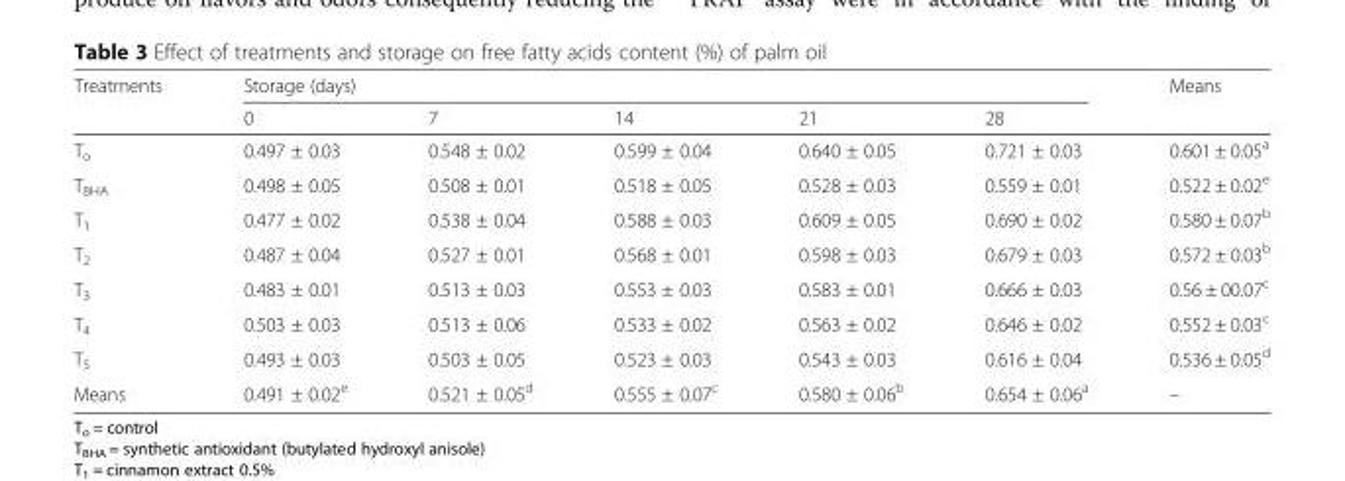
<table><thead><tr><td rowspan="2">Treatments</td><td colspan="5">Storage (days)</td><td rowspan="2">Means</td></tr><tr><td>0</td><td>7</td><td>14</td><td>21</td><td>28</td></tr></thead><tbody><tr><td>T<sub>o</sub></td><td>0.497 ± 0.03</td><td>0.548 ± 0.02</td><td>0.599 ± 0.04</td><td>0.640 ± 0.05</td><td>0.721 ± 0.03</td><td>0.601 ± 0.05<sup>a</sup></td></tr><tr><td>T<sub>BHA</sub></td><td>0.498 ± 0.05</td><td>0.508 ± 0.01</td><td>0.518 ± 0.05</td><td>0.528 ± 0.03</td><td>0.559 ± 0.01</td><td>0.522 ± 0.02<sup>e</sup></td></tr><tr><td>T<sub>1</sub></td><td>0.477 ± 0.02</td><td>0.538 ± 0.04</td><td>0.588 ± 0.03</td><td>0.609 ± 0.05</td><td>0.690 ± 0.02</td><td>0.580 ± 0.07<sup>b</sup></td></tr><tr><td>T<sub>2</sub></td><td>0.487 ± 0.04</td><td>0.527 ± 0.01</td><td>0.568 ± 0.01</td><td>0.598 ± 0.03</td><td>0.679 ± 0.03</td><td>0.572 ± 0.03<sup>b</sup></td></tr><tr><td>T<sub>3</sub></td><td>0.483 ± 0.01</td><td>0.513 ± 0.03</td><td>0.553 ± 0.03</td><td>0.583 ± 0.01</td><td>0.666 ± 0.03</td><td>0.56 ± 00.07<sup>c</sup></td></tr><tr><td>T<sub>4</sub></td><td>0.503 ± 0.03</td><td>0.513 ± 0.06</td><td>0.533 ± 0.02</td><td>0.563 ± 0.02</td><td>0.646 ± 0.02</td><td>0.552 ± 0.03<sup>c</sup></td></tr><tr><td>T<sub>5</sub></td><td>0.493 ± 0.03</td><td>0.503 ± 0.05</td><td>0.523 ± 0.03</td><td>0.543 ± 0.03</td><td>0.616 ± 0.04</td><td>0.536 ± 0.05<sup>d</sup></td></tr><tr><td>Means</td><td>0.491 ± 0.02<sup>e</sup></td><td>0.521 ± 0.05<sup>d</sup></td><td>0.555 ± 0.07<sup>c</sup></td><td>0.580 ± 0.06<sup>b</sup></td><td>0.654 ± 0.06<sup>a</sup></td><td>–</td></tr></tbody></table>